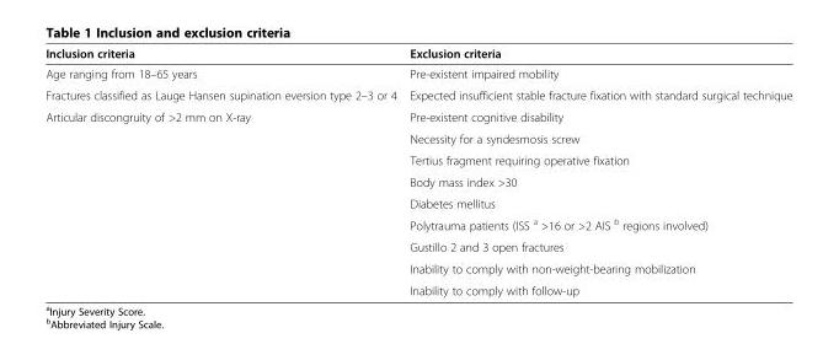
<table><thead><tr><td>Inclusion criteria</td><td>Exclusion criteria</td></tr></thead><tbody><tr><td>Age ranging from 18–65 years</td><td>Pre-existent impaired mobility</td></tr><tr><td>Fractures classified as Lauge Hansen supination eversion type 2–3 or 4</td><td>Expected insufficient stable fracture fixation with standard surgical technique</td></tr><tr><td rowspan="9">Articular discongruity of &gt;2 mm on X-ray</td><td>Pre-existent cognitive disability</td></tr><tr><td>Necessity for a syndesmosis screw</td></tr><tr><td>Tertius fragment requiring operative fixation</td></tr><tr><td>Body mass index &gt;30</td></tr><tr><td>Diabetes mellitus</td></tr><tr><td>Polytrauma patients (ISS <sup>a</sup> &gt;16 or &gt;2 AIS <sup>b</sup> regions involved)</td></tr><tr><td>Gustillo 2 and 3 open fractures</td></tr><tr><td>Inability to comply with non-weight-bearing mobilization</td></tr><tr><td>Inability to comply with follow-up</td></tr></tbody></table>